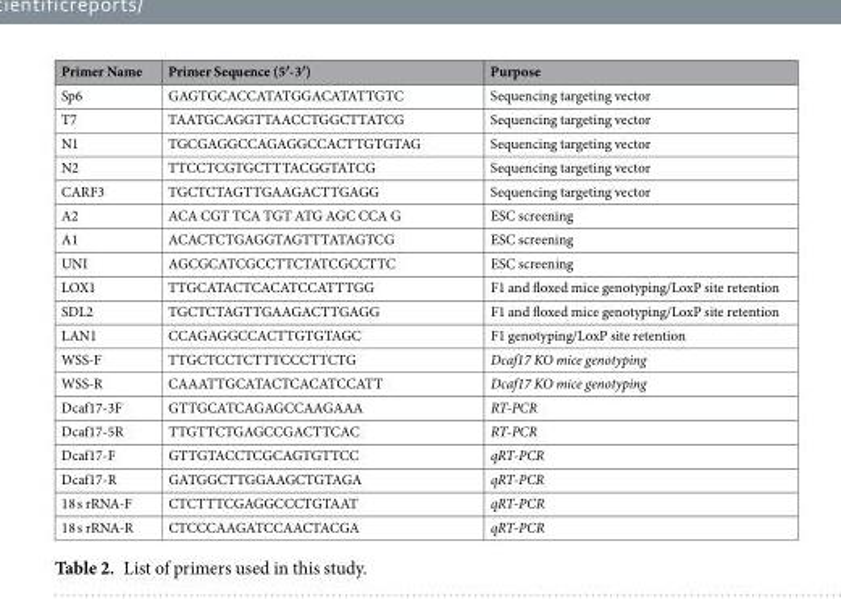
<table><thead><tr><td>Primer Name</td><td>Primer Sequence (5′-3′)</td><td>Purpose</td></tr></thead><tbody><tr><td>Sp6</td><td>GAGTGCACCATATGGACATATTGTC</td><td>Sequencing targeting vector</td></tr><tr><td>T7</td><td>TAATGCAGGTTAACCTGGCTTATCG</td><td>Sequencing targeting vector</td></tr><tr><td>N1</td><td>TGCGAGGCCAGAGGCCACTTGTGTAG</td><td>Sequencing targeting vector</td></tr><tr><td>N2</td><td>TTCCTCGTGCTTTACGGTATCG</td><td>Sequencing targeting vector</td></tr><tr><td>CARF3</td><td>TGCTCTAGTTGAAGACTTGAGG</td><td>Sequencing targeting vector</td></tr><tr><td>A2</td><td>ACA CGT TCA TGT ATG AGC CCA G</td><td>ESC screening</td></tr><tr><td>A1</td><td>ACACTCTGAGGTAGTTTATAGTCG</td><td>ESC screening</td></tr><tr><td>UNI</td><td>AGCGCATCGCCTTCTATCGCCTTC</td><td>ESC screening</td></tr><tr><td>LOX1</td><td>TTGCATACTCACATCCATTTGG</td><td>F1 and floxed mice genotyping/LoxP site retention</td></tr><tr><td>SDL2</td><td>TGCTCTAGTTGAAGACTTGAGG</td><td>F1 and floxed mice genotyping/LoxP site retention</td></tr><tr><td>LAN1</td><td>CCAGAGGCCACTTGTGTAGC</td><td>F1 genotyping/LoxP site retention</td></tr><tr><td>WSS-F</td><td>TTGCTCCTCTTTCCCTTCTG</td><td>Dcaf17 KO mice genotyping</td></tr><tr><td>WSS-R</td><td>CAAATTGCATACTCACATCCATT</td><td>Dcaf17 KO mice genotyping</td></tr><tr><td>Dcaf17-3F</td><td>GTTGCATCAGAGCCAAGAAA</td><td>RT-PCR</td></tr><tr><td>Dcaf17-5R</td><td>TTGTTCTGAGCCGACTTCAC</td><td>RT-PCR</td></tr><tr><td>Dcaf17-F</td><td>GTTGTACCTCGCAGTGTTCC</td><td>qRT-PCR</td></tr><tr><td>Dcaf17-R</td><td>GATGGCTTGGAAGCTGTAGA</td><td>qRT-PCR</td></tr><tr><td>18 s rRNA-F</td><td>CTCTTTCGAGGCCCTGTAAT</td><td>qRT-PCR</td></tr><tr><td>18 s rRNA-R</td><td>CTCCCAAGATCCAACTACGA</td><td>qRT-PCR</td></tr></tbody></table>